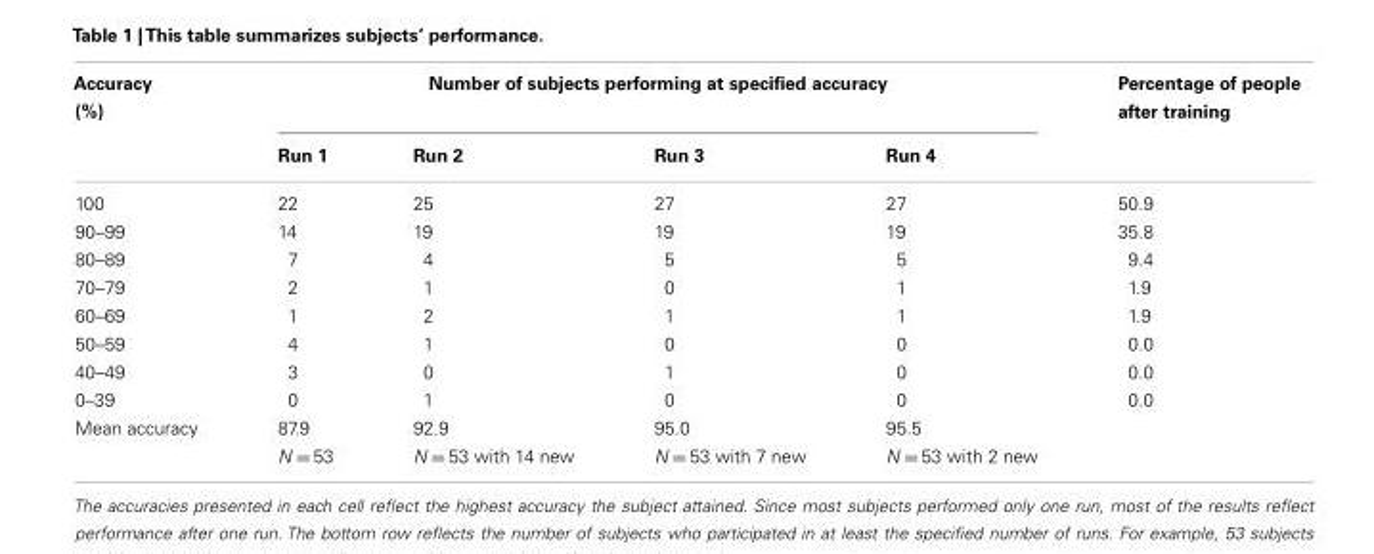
<table><thead><tr><td rowspan="2">Accuracy (%)</td><td colspan="4">Number of subjects performing at specified accuracy</td><td rowspan="2">Percentage of people after training</td></tr><tr><td>Run 1</td><td>Run 2</td><td>Run 3</td><td>Run 4</td></tr></thead><tbody><tr><td>100</td><td>22</td><td>25</td><td>27</td><td>27</td><td>50.9</td></tr><tr><td>90–99</td><td>14</td><td>19</td><td>19</td><td>19</td><td>35.8</td></tr><tr><td>80–89</td><td>7</td><td>4</td><td>5</td><td>5</td><td>9.4</td></tr><tr><td>70–79</td><td>2</td><td>1</td><td>0</td><td>1</td><td>1.9</td></tr><tr><td>60–69</td><td>1</td><td>2</td><td>1</td><td>1</td><td>1.9</td></tr><tr><td>50–59</td><td>4</td><td>1</td><td>0</td><td>0</td><td>0.0</td></tr><tr><td>40–49</td><td>3</td><td>0</td><td>1</td><td>0</td><td>0.0</td></tr><tr><td>0–39</td><td>0</td><td>1</td><td>0</td><td>0</td><td>0.0</td></tr><tr><td rowspan="2">Mean accuracy</td><td>87.9</td><td>92.9</td><td>95.0</td><td>95.5</td><td></td></tr><tr><td>N = 53</td><td>N = 53 with 14 new</td><td>N = 53 with 7 new</td><td>N = 53 with 2 new</td><td></td></tr></tbody></table>